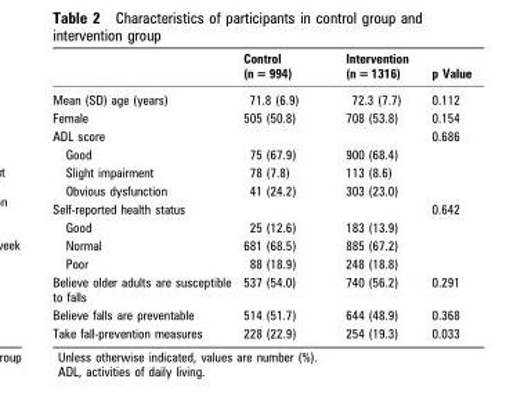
<table><thead><tr><td></td><td>Control (n = 994)</td><td>Intervention (n = 1316)</td><td>p Value</td></tr></thead><tbody><tr><td>Mean (SD) age (years)</td><td>71.8 (6.9)</td><td>72.3 (7.7)</td><td>0.112</td></tr><tr><td>Female</td><td>505 (50.8)</td><td>708 (53.8)</td><td>0.154</td></tr><tr><td>ADL score</td><td></td><td></td><td>0.686</td></tr><tr><td>Good</td><td>75 (67.9)</td><td>900 (68.4)</td><td></td></tr><tr><td>Slight impairment</td><td>78 (7.8)</td><td>113 (8.6)</td><td></td></tr><tr><td>Obvious dysfunction</td><td>41 (24.2)</td><td>303 (23.0)</td><td></td></tr><tr><td>Self-reported health status</td><td></td><td></td><td>0.642</td></tr><tr><td>Good</td><td>25 (12.6)</td><td>183 (13.9)</td><td></td></tr><tr><td>Normal</td><td>681 (68.5)</td><td>885 (67.2)</td><td></td></tr><tr><td>Poor</td><td>88 (18.9)</td><td>248 (18.8)</td><td></td></tr><tr><td>Believe older adults are susceptible to falls</td><td>537 (54.0)</td><td>740 (56.2)</td><td>0.291</td></tr><tr><td>Believe falls are preventable</td><td>514 (51.7)</td><td>644 (48.9)</td><td>0.368</td></tr><tr><td>Take fall-prevention measures</td><td>228 (22.9)</td><td>254 (19.3)</td><td>0.033</td></tr></tbody></table>